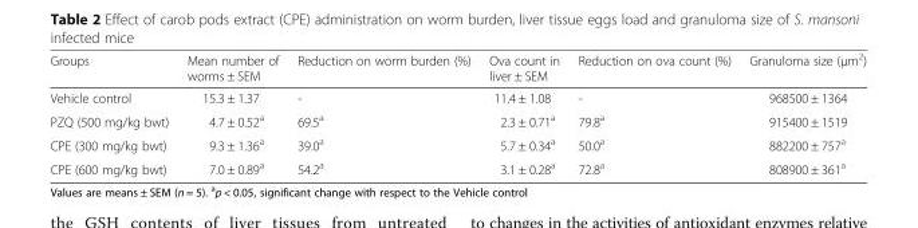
<table><thead><tr><td>Groups</td><td>Mean number of worms ± SEM</td><td>Reduction on worm burden (%)</td><td>Ova count in liver ± SEM</td><td>Reduction on ova count (%)</td><td>Granuloma size (μm<sup>2</sup>)</td></tr></thead><tbody><tr><td>Vehicle control</td><td>15.3 ± 1.37</td><td>-</td><td>11.4 ± 1.08</td><td>-</td><td>968500 ± 1364</td></tr><tr><td>PZQ (500 mg/kg bwt)</td><td>4.7 ± 0.52<sup>a</sup></td><td>69.5<sup>a</sup></td><td>2.3 ± 0.71<sup>a</sup></td><td>79.8<sup>a</sup></td><td>915400 ± 1519</td></tr><tr><td>CPE (300 mg/kg bwt)</td><td>9.3 ± 1.36<sup>a</sup></td><td>39.0<sup>a</sup></td><td>5.7 ± 0.34<sup>a</sup></td><td>50.0<sup>a</sup></td><td>882200 ± 757<sup>a</sup></td></tr><tr><td>CPE (600 mg/kg bwt)</td><td>7.0 ± 0.89<sup>a</sup></td><td>54.2<sup>a</sup></td><td>3.1 ± 0.28<sup>a</sup></td><td>72.8<sup>a</sup></td><td>808900 ± 361<sup>a</sup></td></tr></tbody></table>